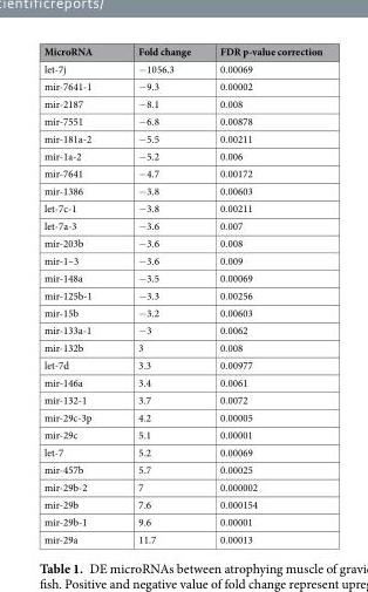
<table><thead><tr><td>MicroRNA</td><td>Fold change</td><td>FDR p-value correction</td></tr></thead><tbody><tr><td>let-7j</td><td>−1056.3</td><td>0.00069</td></tr><tr><td>mir-7641-1</td><td>−9.3</td><td>0.00002</td></tr><tr><td>mir-2187</td><td>−8.1</td><td>0.008</td></tr><tr><td>mir-7551</td><td>−6.8</td><td>0.00878</td></tr><tr><td>mir-181a-2</td><td>−5.5</td><td>0.00211</td></tr><tr><td>mir-1a-2</td><td>−5.2</td><td>0.006</td></tr><tr><td>mir-7641</td><td>−4.7</td><td>0.00172</td></tr><tr><td>mir-1386</td><td>−3.8</td><td>0.00603</td></tr><tr><td>let-7c-1</td><td>−3.8</td><td>0.00211</td></tr><tr><td>let-7a-3</td><td>−3.6</td><td>0.007</td></tr><tr><td>mir-203b</td><td>−3.6</td><td>0.008</td></tr><tr><td>mir-1–3</td><td>−3.6</td><td>0.009</td></tr><tr><td>mir-148a</td><td>−3.5</td><td>0.00069</td></tr><tr><td>mir-125b-1</td><td>−3.3</td><td>0.00256</td></tr><tr><td>mir-15b</td><td>−3.2</td><td>0.00603</td></tr><tr><td>mir-133a-1</td><td>−3</td><td>0.0062</td></tr><tr><td>mir-132b</td><td>3</td><td>0.008</td></tr><tr><td>let-7d</td><td>3.3</td><td>0.00977</td></tr><tr><td>mir-146a</td><td>3.4</td><td>0.0061</td></tr><tr><td>mir-132-1</td><td>3.7</td><td>0.0072</td></tr><tr><td>mir-29c-3p</td><td>4.2</td><td>0.00005</td></tr><tr><td>mir-29c</td><td>5.1</td><td>0.00001</td></tr><tr><td>let-7</td><td>5.2</td><td>0.00069</td></tr><tr><td>mir-457b</td><td>5.7</td><td>0.00025</td></tr><tr><td>mir-29b-2</td><td>7</td><td>0.000002</td></tr><tr><td>mir-29b</td><td>7.6</td><td>0.000154</td></tr><tr><td>mir-29b-1</td><td>9.6</td><td>0.00001</td></tr><tr><td>mir-29a</td><td>11.7</td><td>0.00013</td></tr></tbody></table>